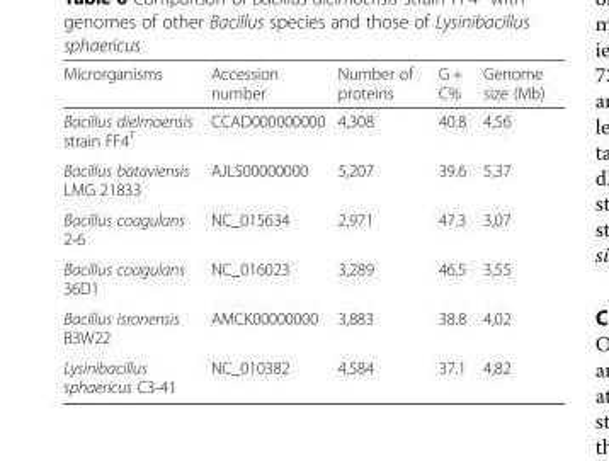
<table><thead><tr><td>Microrganisms</td><td>Accession number</td><td>Number of proteins</td><td>G + C%</td><td>Genome size (Mb)</td></tr></thead><tbody><tr><td>Bacillus dielmoensis strain FF4<sup>T</sup></td><td>CCAD000000000</td><td>4,308</td><td>40.8</td><td>4,56</td></tr><tr><td>Bacillus bataviensis LMG 21833</td><td>AJLS00000000</td><td>5,207</td><td>39.6</td><td>5,37</td></tr><tr><td>Bacillus coagulans 2-6</td><td>NC_015634</td><td>2,971</td><td>47.3</td><td>3,07</td></tr><tr><td>Bacillus coagulans 36D1</td><td>NC_016023</td><td>3,289</td><td>46.5</td><td>3,55</td></tr><tr><td>Bacillus isronensis B3W22</td><td>AMCK00000000</td><td>3,883</td><td>38.8</td><td>4,02</td></tr><tr><td>Lysinibacillus sphaericus C3-41</td><td>NC_010382</td><td>4,584</td><td>37.1</td><td>4,82</td></tr></tbody></table>